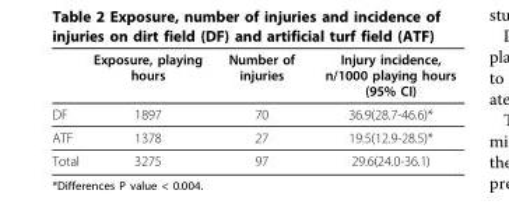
<table><thead><tr><td></td><td>Exposure, playing hours</td><td>Number of injuries</td><td>Injury incidence, n/1000 playing hours (95% CI)</td></tr></thead><tbody><tr><td>DF</td><td>1897</td><td>70</td><td>36.9(28.7-46.6)*</td></tr><tr><td>ATF</td><td>1378</td><td>27</td><td>19.5(12.9-28.5)*</td></tr><tr><td>Total</td><td>3275</td><td>97</td><td>29.6(24.0-36.1)</td></tr></tbody></table>